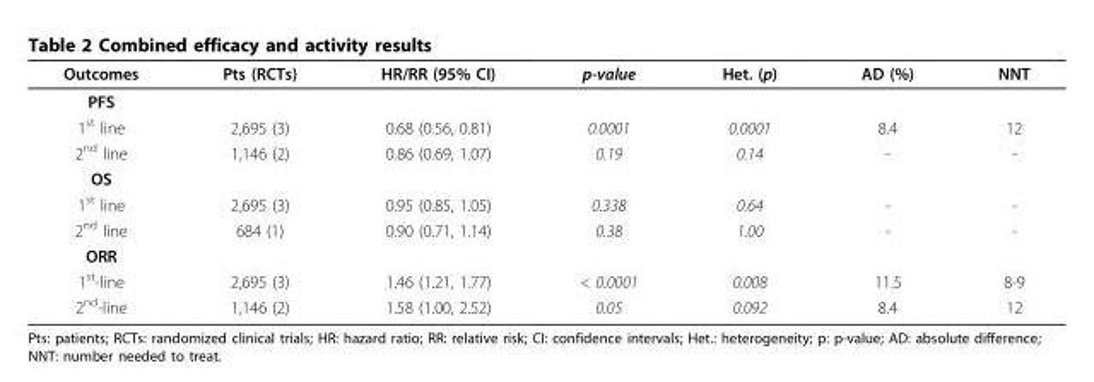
<table><thead><tr><td>Outcomes</td><td>Pts (RCTs)</td><td>HR/RR (95% CI)</td><td>p-value</td><td>Het. (p)</td><td>AD (%)</td><td>NNT</td></tr></thead><tbody><tr><td colspan="7">PFS</td></tr><tr><td>1<sup>st</sup> line</td><td>2,695 (3)</td><td>0.68 (0.56, 0.81)</td><td>0.0001</td><td>0.0001</td><td>8.4</td><td>12</td></tr><tr><td>2<sup>nd</sup> line</td><td>1,146 (2)</td><td>0.86 (0.69, 1.07)</td><td>0.19</td><td>0.14</td><td>-</td><td>-</td></tr><tr><td colspan="7">OS</td></tr><tr><td>1<sup>st</sup> line</td><td>2,695 (3)</td><td>0.95 (0.85, 1.05)</td><td>0.338</td><td>0.64</td><td>-</td><td>-</td></tr><tr><td>2<sup>nd</sup> line</td><td>684 (1)</td><td>0.90 (0.71, 1.14)</td><td>0.38</td><td>1.00</td><td>-</td><td>-</td></tr><tr><td colspan="7">ORR</td></tr><tr><td>1<sup>st</sup>-line</td><td>2,695 (3)</td><td>1.46 (1.21, 1.77)</td><td>&lt; 0.0001</td><td>0.008</td><td>11.5</td><td>8-9</td></tr><tr><td>2<sup>nd</sup>-line</td><td>1,146 (2)</td><td>1.58 (1.00, 2.52)</td><td>0.05</td><td>0.092</td><td>8.4</td><td>12</td></tr></tbody></table>